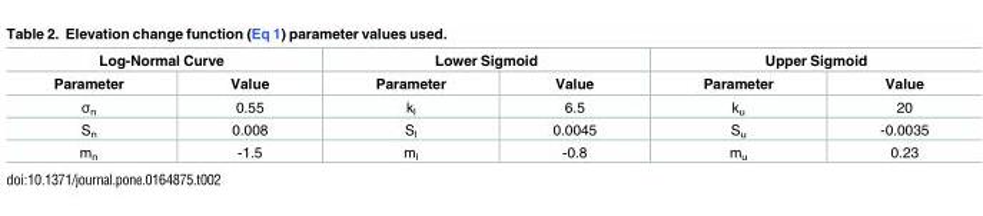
<table><thead><tr><td colspan="2">Log-Normal Curve</td><td colspan="2">Lower Sigmoid</td><td colspan="2">Upper Sigmoid</td></tr><tr><td>Parameter</td><td>Value</td><td>Parameter</td><td>Value</td><td>Parameter</td><td>Value</td></tr></thead><tbody><tr><td>σ<sub>n</sub></td><td>0.55</td><td>k<sub>l</sub></td><td>6.5</td><td>k<sub>u</sub></td><td>20</td></tr><tr><td>S<sub>n</sub></td><td>0.008</td><td>S<sub>l</sub></td><td>0.0045</td><td>S<sub>u</sub></td><td>-0.0035</td></tr><tr><td>m<sub>n</sub></td><td>-1.5</td><td>m<sub>l</sub></td><td>-0.8</td><td>m<sub>u</sub></td><td>0.23</td></tr></tbody></table>